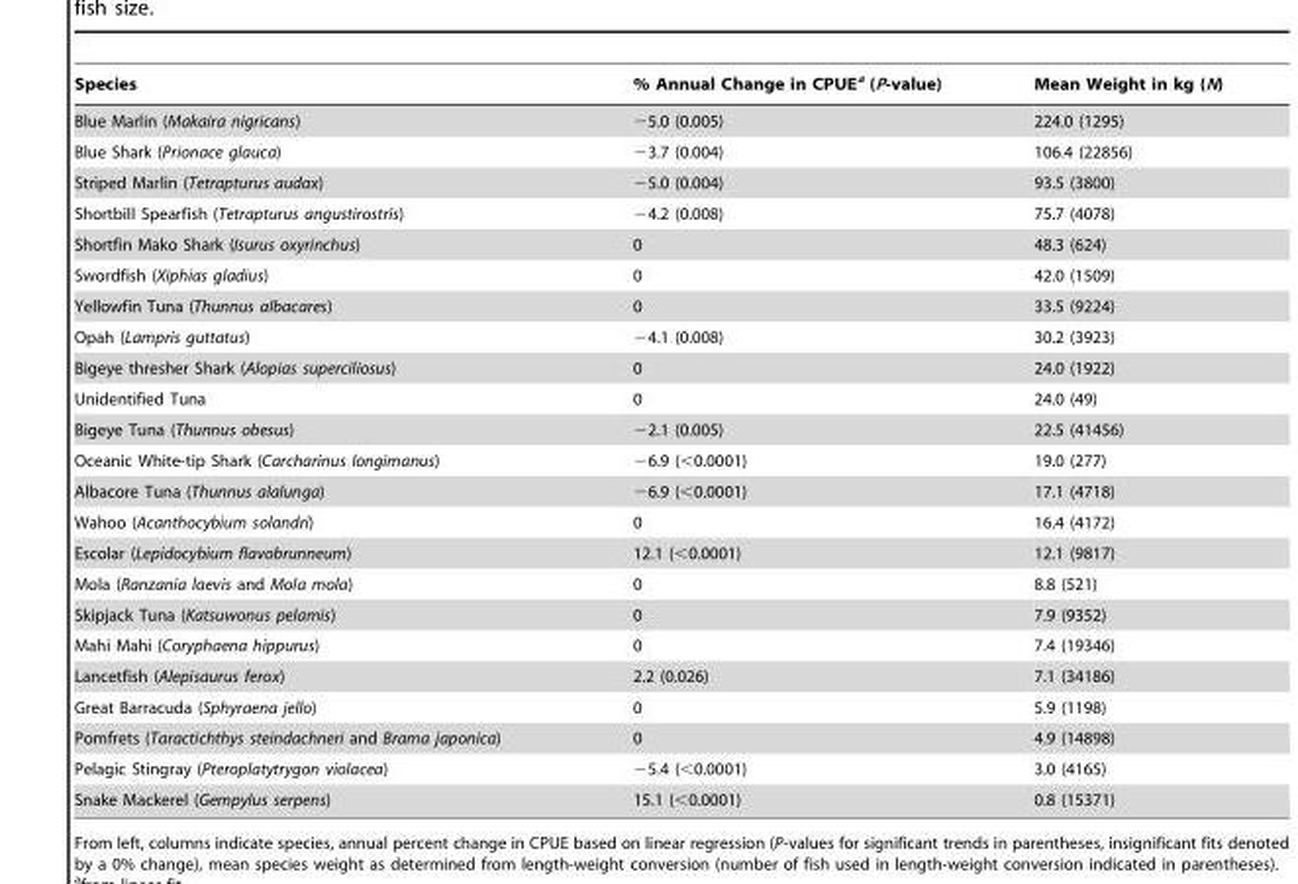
<table><thead><tr><td>Species</td><td>% Annual Change in CPUE<sup>a</sup> (P-value)</td><td>Mean Weight in kg (N)</td></tr></thead><tbody><tr><td>Blue Marlin (Makaira nigricans)</td><td>−5.0 (0.005)</td><td>224.0 (1295)</td></tr><tr><td>Blue Shark (Prionace glauca)</td><td>−3.7 (0.004)</td><td>106.4 (22856)</td></tr><tr><td>Striped Marlin (Tetrapturus audax)</td><td>−5.0 (0.004)</td><td>93.5 (3800)</td></tr><tr><td>Shortbill Spearfish (Tetrapturus angustirostris)</td><td>−4.2 (0.008)</td><td>75.7 (4078)</td></tr><tr><td>Shortfin Mako Shark (Isurus oxyrinchus)</td><td>0</td><td>48.3 (624)</td></tr><tr><td>Swordfish (Xiphias gladius)</td><td>0</td><td>42.0 (1509)</td></tr><tr><td>Yellowfin Tuna (Thunnus albacares)</td><td>0</td><td>33.5 (9224)</td></tr><tr><td>Opah (Lampris guttatus)</td><td>−4.1 (0.008)</td><td>30.2 (3923)</td></tr><tr><td>Bigeye thresher Shark (Alopias superciliosus)</td><td>0</td><td>24.0 (1922)</td></tr><tr><td>Unidentified Tuna</td><td>0</td><td>24.0 (49)</td></tr><tr><td>Bigeye Tuna (Thunnus obesus)</td><td>−2.1 (0.005)</td><td>22.5 (41456)</td></tr><tr><td>Oceanic White-tip Shark (Carcharinus longimanus)</td><td>−6.9 (&lt;0.0001)</td><td>19.0 (277)</td></tr><tr><td>Albacore Tuna (Thunnus alalunga)</td><td>−6.9 (&lt;0.0001)</td><td>17.1 (4718)</td></tr><tr><td>Wahoo (Acanthocybium solandri)</td><td>0</td><td>16.4 (4172)</td></tr><tr><td>Escolar (Lepidocybium flavobrunneum)</td><td>12.1 (&lt;0.0001)</td><td>12.1 (9817)</td></tr><tr><td>Mola (Ranzania laevis and Mola mola)</td><td>0</td><td>8.8 (521)</td></tr><tr><td>Skipjack Tuna (Katsuwonus pelamis)</td><td>0</td><td>7.9 (9352)</td></tr><tr><td>Mahi Mahi (Coryphaena hippurus)</td><td>0</td><td>7.4 (19346)</td></tr><tr><td>Lancetfish (Alepisaurus ferox)</td><td>2.2 (0.026)</td><td>7.1 (34186)</td></tr><tr><td>Great Barracuda (Sphyraena jello)</td><td>0</td><td>5.9 (1198)</td></tr><tr><td>Pomfrets (Taractichthys steindachneri and Brama japonica)</td><td>0</td><td>4.9 (14898)</td></tr><tr><td>Pelagic Stingray (Pteroplatytrygon violacea)</td><td>−5.4 (&lt;0.0001)</td><td>3.0 (4165)</td></tr><tr><td>Snake Mackerel (Gempylus serpens)</td><td>15.1 (&lt;0.0001)</td><td>0.8 (15371)</td></tr></tbody></table>